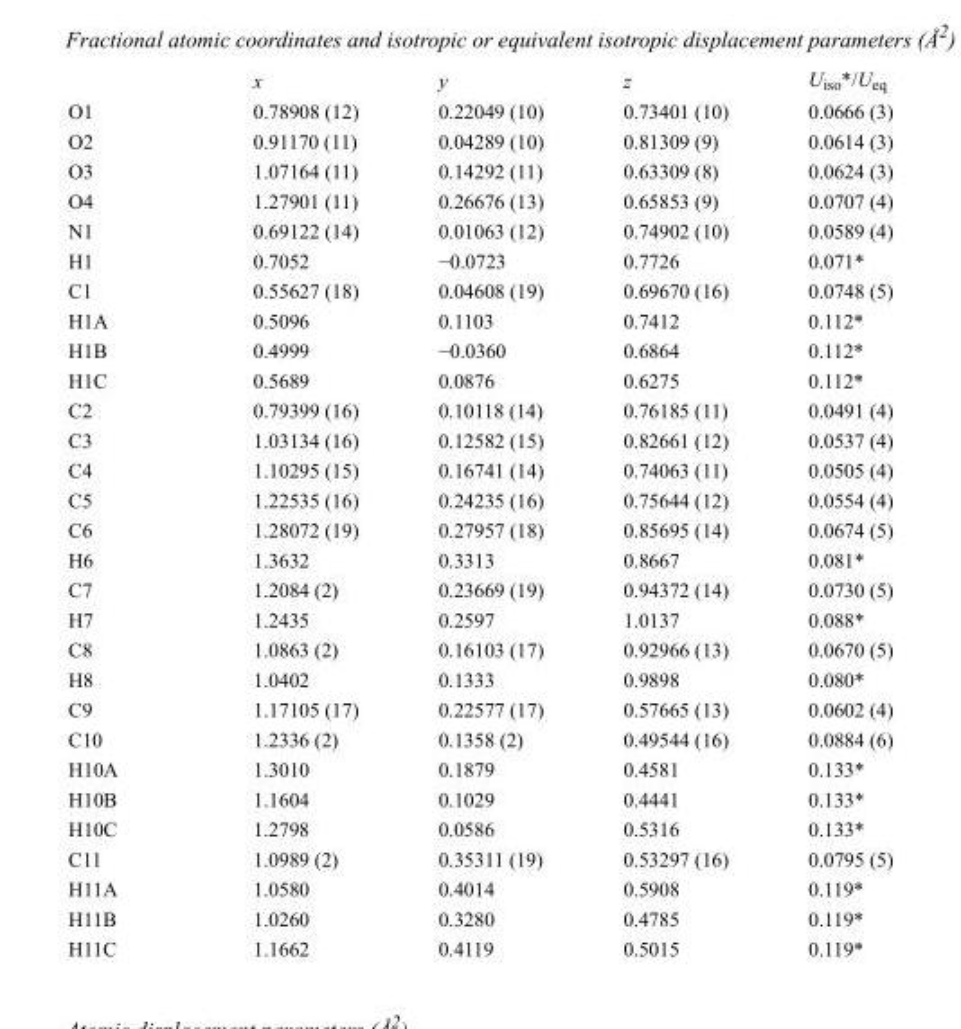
<table><thead><tr><td></td><td>x</td><td>y</td><td>z</td><td>U<sub>iso</sub>*/U<sub>eq</sub></td></tr></thead><tbody><tr><td>O1</td><td>0.78908 (12)</td><td>0.22049 (10)</td><td>0.73401 (10)</td><td>0.0666 (3)</td></tr><tr><td>O2</td><td>0.91170 (11)</td><td>0.04289 (10)</td><td>0.81309 (9)</td><td>0.0614 (3)</td></tr><tr><td>O3</td><td>1.07164 (11)</td><td>0.14292 (11)</td><td>0.63309 (8)</td><td>0.0624 (3)</td></tr><tr><td>O4</td><td>1.27901 (11)</td><td>0.26676 (13)</td><td>0.65853 (9)</td><td>0.0707 (4)</td></tr><tr><td>N1</td><td>0.69122 (14)</td><td>0.01063 (12)</td><td>0.74902 (10)</td><td>0.0589 (4)</td></tr><tr><td>H1</td><td>0.7052</td><td>−0.0723</td><td>0.7726</td><td>0.071*</td></tr><tr><td>C1</td><td>0.55627 (18)</td><td>0.04608 (19)</td><td>0.69670 (16)</td><td>0.0748 (5)</td></tr><tr><td>H1A</td><td>0.5096</td><td>0.1103</td><td>0.7412</td><td>0.112*</td></tr><tr><td>H1B</td><td>0.4999</td><td>−0.0360</td><td>0.6864</td><td>0.112*</td></tr><tr><td>H1C</td><td>0.5689</td><td>0.0876</td><td>0.6275</td><td>0.112*</td></tr><tr><td>C2</td><td>0.79399 (16)</td><td>0.10118 (14)</td><td>0.76185 (11)</td><td>0.0491 (4)</td></tr><tr><td>C3</td><td>1.03134 (16)</td><td>0.12582 (15)</td><td>0.82661 (12)</td><td>0.0537 (4)</td></tr><tr><td>C4</td><td>1.10295 (15)</td><td>0.16741 (14)</td><td>0.74063 (11)</td><td>0.0505 (4)</td></tr><tr><td>C5</td><td>1.22535 (16)</td><td>0.24235 (16)</td><td>0.75644 (12)</td><td>0.0554 (4)</td></tr><tr><td>C6</td><td>1.28072 (19)</td><td>0.27957 (18)</td><td>0.85695 (14)</td><td>0.0674 (5)</td></tr><tr><td>H6</td><td>1.3632</td><td>0.3313</td><td>0.8667</td><td>0.081*</td></tr><tr><td>C7</td><td>1.2084 (2)</td><td>0.23669 (19)</td><td>0.94372 (14)</td><td>0.0730 (5)</td></tr><tr><td>H7</td><td>1.2435</td><td>0.2597</td><td>1.0137</td><td>0.088*</td></tr><tr><td>C8</td><td>1.0863 (2)</td><td>0.16103 (17)</td><td>0.92966 (13)</td><td>0.0670 (5)</td></tr><tr><td>H8</td><td>1.0402</td><td>0.1333</td><td>0.9898</td><td>0.080*</td></tr><tr><td>C9</td><td>1.17105 (17)</td><td>0.22577 (17)</td><td>0.57665 (13)</td><td>0.0602 (4)</td></tr><tr><td>C10</td><td>1.2336 (2)</td><td>0.1358 (2)</td><td>0.49544 (16)</td><td>0.0884 (6)</td></tr><tr><td>H10A</td><td>1.3010</td><td>0.1879</td><td>0.4581</td><td>0.133*</td></tr><tr><td>H10B</td><td>1.1604</td><td>0.1029</td><td>0.4441</td><td>0.133*</td></tr><tr><td>H10C</td><td>1.2798</td><td>0.0586</td><td>0.5316</td><td>0.133*</td></tr><tr><td>C11</td><td>1.0989 (2)</td><td>0.35311 (19)</td><td>0.53297 (16)</td><td>0.0795 (5)</td></tr><tr><td>H11A</td><td>1.0580</td><td>0.4014</td><td>0.5908</td><td>0.119*</td></tr><tr><td>H11B</td><td>1.0260</td><td>0.3280</td><td>0.4785</td><td>0.119*</td></tr><tr><td>H11C</td><td>1.1662</td><td>0.4119</td><td>0.5015</td><td>0.119*</td></tr></tbody></table>